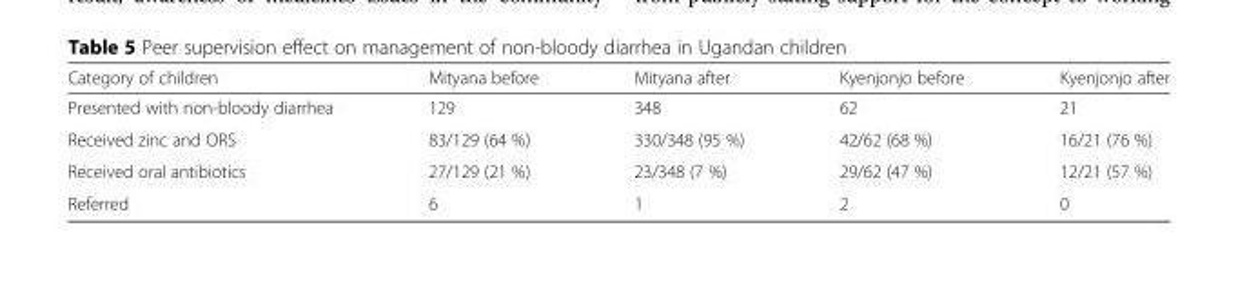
<table><thead><tr><td>Category of children</td><td>Mityana before</td><td>Mityana after</td><td>Kyenjonjo before</td><td>Kyenjonjo after</td></tr></thead><tbody><tr><td>Presented with non-bloody diarrhea</td><td>129</td><td>348</td><td>62</td><td>21</td></tr><tr><td>Received zinc and ORS</td><td>83/129 (64 %)</td><td>330/348 (95 %)</td><td>42/62 (68 %)</td><td>16/21 (76 %)</td></tr><tr><td>Received oral antibiotics</td><td>27/129 (21 %)</td><td>23/348 (7 %)</td><td>29/62 (47 %)</td><td>12/21 (57 %)</td></tr><tr><td>Referred</td><td>6</td><td>1</td><td>2</td><td>0</td></tr></tbody></table>